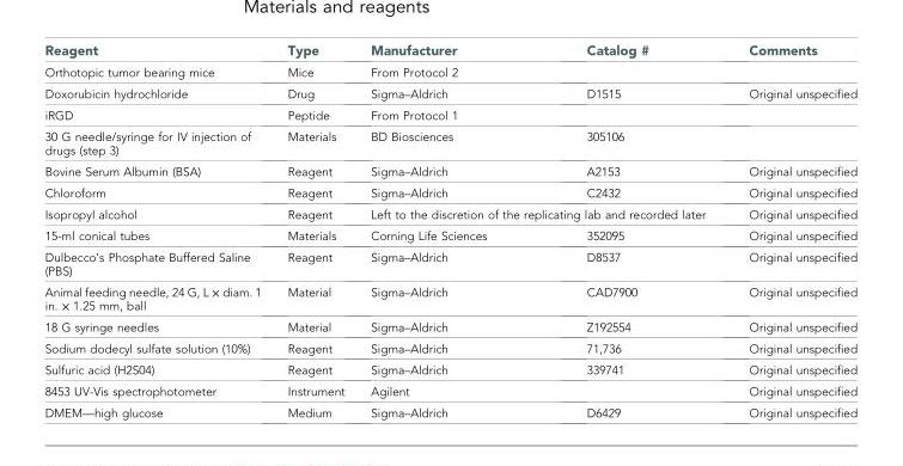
<table><thead><tr><td>Reagent</td><td>Type</td><td>Manufacturer</td><td>Catalog #</td><td>Comments</td></tr></thead><tbody><tr><td>Orthotopic tumor bearing mice</td><td>Mice</td><td>From Protocol 2</td><td></td><td></td></tr><tr><td>Doxorubicin hydrochloride</td><td>Drug</td><td>Sigma–Aldrich</td><td>D1515</td><td>Original unspecified</td></tr><tr><td>iRGD</td><td>Peptide</td><td>From Protocol 1</td><td></td><td></td></tr><tr><td>30 G needle/syringe for IV injection of drugs (step 3)</td><td>Materials</td><td>BD Biosciences</td><td>305106</td><td></td></tr><tr><td>Bovine Serum Albumin (BSA)</td><td>Reagent</td><td>Sigma–Aldrich</td><td>A2153</td><td>Original unspecified</td></tr><tr><td>Chloroform</td><td>Reagent</td><td>Sigma–Aldrich</td><td>C2432</td><td>Original unspecified</td></tr><tr><td>Isopropyl alcohol</td><td>Reagent</td><td colspan="2">Left to the discretion of the replicating lab and recorded later</td><td>Original unspecified</td></tr><tr><td>15-ml conical tubes</td><td>Materials</td><td>Corning Life Sciences</td><td>352095</td><td>Original unspecified</td></tr><tr><td>Dulbecco’s Phosphate Buffered Saline (PBS)</td><td>Reagent</td><td>Sigma–Aldrich</td><td>D8537</td><td>Original unspecified</td></tr><tr><td>Animal feeding needle, 24 G, L × diam. 1 in. × 1.25 mm, ball</td><td>Material</td><td>Sigma–Aldrich</td><td>CAD7900</td><td>Original unspecified</td></tr><tr><td>18 G syringe needles</td><td>Material</td><td>Sigma–Aldrich</td><td>Z192554</td><td>Original unspecified</td></tr><tr><td>Sodium dodecyl sulfate solution (10%)</td><td>Reagent</td><td>Sigma–Aldrich</td><td>71,736</td><td>Original unspecified</td></tr><tr><td>Sulfuric acid (H2S04)</td><td>Reagent</td><td>Sigma–Aldrich</td><td>339741</td><td>Original unspecified</td></tr><tr><td>8453 UV-Vis spectrophotometer</td><td>Instrument</td><td>Agilent</td><td></td><td>Original unspecified</td></tr><tr><td>DMEM—high glucose</td><td>Medium</td><td>Sigma–Aldrich</td><td>D6429</td><td>Original unspecified</td></tr></tbody></table>